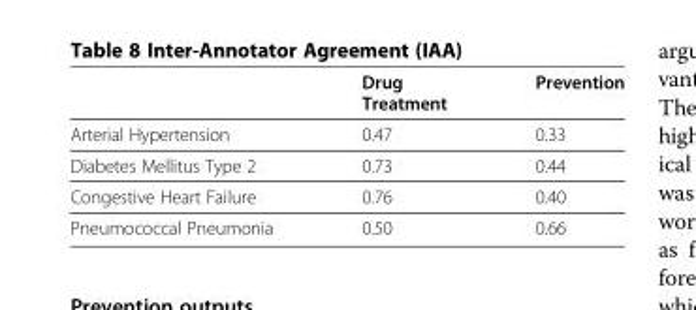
<table><thead><tr><td></td><td>Drug Treatment</td><td>Prevention</td></tr></thead><tbody><tr><td>Arterial Hypertension</td><td>0.47</td><td>0.33</td></tr><tr><td>Diabetes Mellitus Type 2</td><td>0.73</td><td>0.44</td></tr><tr><td>Congestive Heart Failure</td><td>0.76</td><td>0.40</td></tr><tr><td>Pneumococcal Pneumonia</td><td>0.50</td><td>0.66</td></tr></tbody></table>